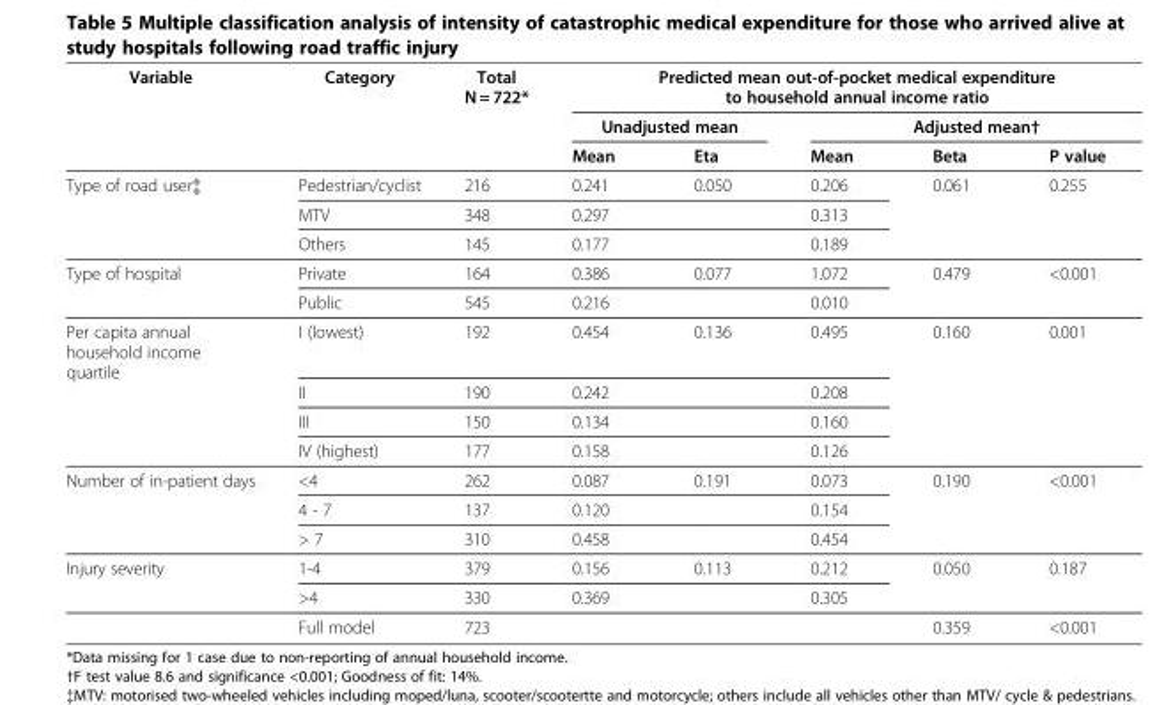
<table><thead><tr><td rowspan="3">Variable</td><td rowspan="3">Category</td><td rowspan="3">Total N = 722*</td><td colspan="5">Predicted mean out-of-pocket medical expenditure to household annual income ratio</td></tr><tr><td colspan="2">Unadjusted mean</td><td colspan="3">Adjusted mean†</td></tr><tr><td>Mean</td><td>Eta</td><td>Mean</td><td>Beta</td><td>P value</td></tr></thead><tbody><tr><td rowspan="3">Type of road user‡</td><td>Pedestrian/cyclist</td><td>216</td><td>0.241</td><td>0.050</td><td>0.206</td><td>0.061</td><td>0.255</td></tr><tr><td>MTV</td><td>348</td><td>0.297</td><td></td><td>0.313</td><td></td><td></td></tr><tr><td>Others</td><td>145</td><td>0.177</td><td></td><td>0.189</td><td></td><td></td></tr><tr><td rowspan="2">Type of hospital</td><td>Private</td><td>164</td><td>0.386</td><td>0.077</td><td>1.072</td><td>0.479</td><td>&lt;0.001</td></tr><tr><td>Public</td><td>545</td><td>0.216</td><td></td><td>0.010</td><td></td><td></td></tr><tr><td rowspan="4">Per capita annual household income quartile</td><td>I (lowest)</td><td>192</td><td>0.454</td><td>0.136</td><td>0.495</td><td>0.160</td><td>0.001</td></tr><tr><td>II</td><td>190</td><td>0.242</td><td></td><td>0.208</td><td></td><td></td></tr><tr><td>III</td><td>150</td><td>0.134</td><td></td><td>0.160</td><td></td><td></td></tr><tr><td>IV (highest)</td><td>177</td><td>0.158</td><td></td><td>0.126</td><td></td><td></td></tr><tr><td rowspan="3">Number of in-patient days</td><td>&lt;4</td><td>262</td><td>0.087</td><td>0.191</td><td>0.073</td><td>0.190</td><td>&lt;0.001</td></tr><tr><td>4 - 7</td><td>137</td><td>0.120</td><td></td><td>0.154</td><td></td><td></td></tr><tr><td>&gt; 7</td><td>310</td><td>0.458</td><td></td><td>0.454</td><td></td><td></td></tr><tr><td rowspan="3">Injury severity</td><td>1-4</td><td>379</td><td>0.156</td><td>0.113</td><td>0.212</td><td>0.050</td><td>0.187</td></tr><tr><td>&gt;4</td><td>330</td><td>0.369</td><td></td><td>0.305</td><td></td><td></td></tr><tr><td>Full model</td><td>723</td><td></td><td></td><td></td><td>0.359</td><td>&lt;0.001</td></tr></tbody></table>